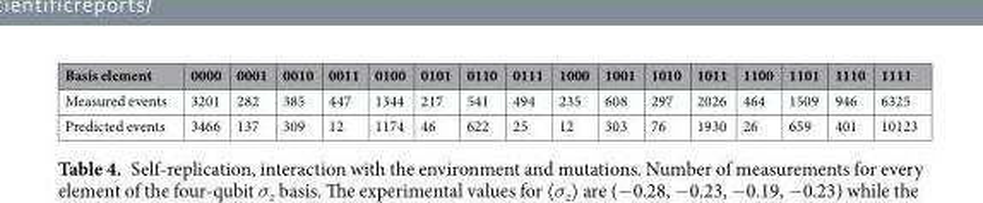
<table><thead><tr><td>Basis element</td><td>0000</td><td>0001</td><td>0010</td><td>0011</td><td>0100</td><td>0101</td><td>0110</td><td>0111</td><td>1000</td><td>1001</td><td>1010</td><td>1011</td><td>1100</td><td>1101</td><td>1110</td><td>1111</td></tr></thead><tbody><tr><td>Measured events</td><td>3201</td><td>282</td><td>385</td><td>447</td><td>1344</td><td>217</td><td>541</td><td>494</td><td>235</td><td>608</td><td>297</td><td>2026</td><td>464</td><td>1509</td><td>946</td><td>6325</td></tr><tr><td>Predicted events</td><td>3466</td><td>137</td><td>309</td><td>12</td><td>1174</td><td>46</td><td>622</td><td>25</td><td>12</td><td>303</td><td>76</td><td>1930</td><td>26</td><td>659</td><td>401</td><td>10123</td></tr></tbody></table>